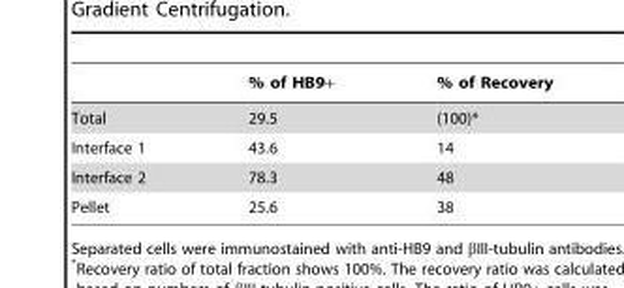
<table><thead><tr><td></td><td>% of HB9+</td><td>% of Recovery</td></tr></thead><tbody><tr><td>Total</td><td>29.5</td><td>(100)*</td></tr><tr><td>Interface 1</td><td>43.6</td><td>14</td></tr><tr><td>Interface 2</td><td>78.3</td><td>48</td></tr><tr><td>Pellet</td><td>25.6</td><td>38</td></tr></tbody></table>